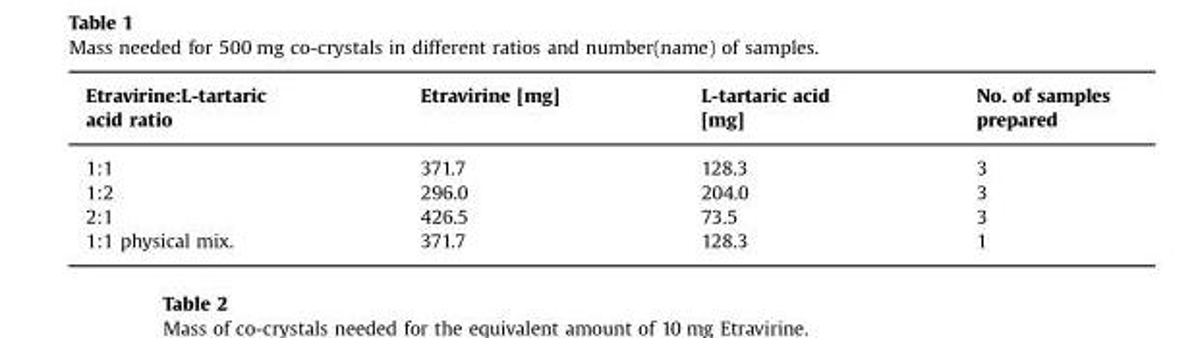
<table><thead><tr><td>Etravirine:L-tartaric acid ratio</td><td>Etravirine [mg]</td><td>L-tartaric acid [mg]</td><td>No. of samples prepared</td></tr></thead><tbody><tr><td>1:1</td><td>371.7</td><td>128.3</td><td>3</td></tr><tr><td>1:2</td><td>296.0</td><td>204.0</td><td>3</td></tr><tr><td>2:1</td><td>426.5</td><td>73.5</td><td>3</td></tr><tr><td>1:1 physical mix.</td><td>371.7</td><td>128.3</td><td>1</td></tr></tbody></table>